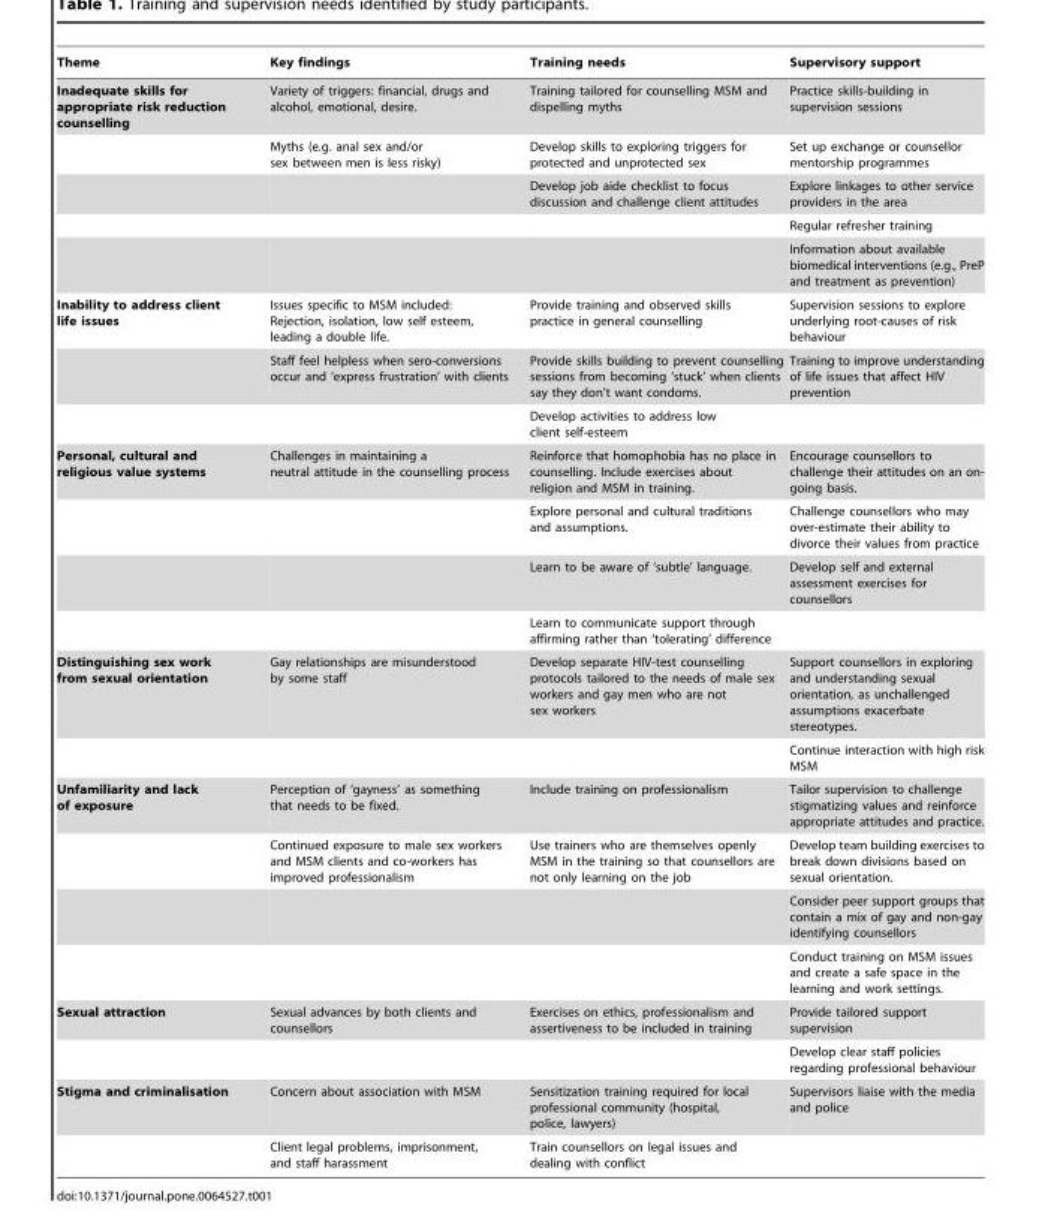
<table><thead><tr><td>Theme</td><td>Key findings</td><td>Training needs</td><td>Supervisory support</td></tr></thead><tbody><tr><td rowspan="5">Inadequate skills for appropriate risk reduction counselling</td><td>Variety of triggers: financial, drugs and alcohol, emotional, desire.</td><td>Training tailored for counselling MSM and dispelling myths</td><td>Practice skills-building in supervision sessions</td></tr><tr><td>Myths (e.g. anal sex and/or sex between men is less risky)</td><td>Develop skills to exploring triggers for protected and unprotected sex</td><td>Set up exchange or counsellor mentorship programmes</td></tr><tr><td></td><td>Develop job aide checklist to focus discussion and challenge client attitudes</td><td>Explore linkages to other service providers in the area</td></tr><tr><td></td><td></td><td>Regular refresher training</td></tr><tr><td></td><td></td><td>Information about available biomedical interventions (e.g., PreP and treatment as prevention)</td></tr><tr><td rowspan="3">Inability to address client life issues</td><td>Issues specific to MSM included: Rejection, isolation, low self esteem, leading a double life.</td><td>Provide training and observed skills practice in general counselling</td><td>Supervision sessions to explore underlying root-causes of risk behaviour</td></tr><tr><td>Staff feel helpless when sero-conversions occur and ‘express frustration’ with clients</td><td>Provide skills building to prevent counselling sessions from becoming ‘stuck’ when clients say they don’t want condoms.</td><td>Training to improve understanding of life issues that affect HIV prevention</td></tr><tr><td></td><td>Develop activities to address low client self-esteem</td><td></td></tr><tr><td rowspan="4">Personal, cultural and religious value systems</td><td>Challenges in maintaining a neutral attitude in the counselling process</td><td>Reinforce that homophobia has no place in counselling. Include exercises about religion and MSM in training.</td><td>Encourage counsellors to challenge their attitudes on an on- going basis.</td></tr><tr><td></td><td>Explore personal and cultural traditions and assumptions.</td><td>Challenge counsellors who may over-estimate their ability to divorce their values from practice</td></tr><tr><td></td><td>Learn to be aware of ‘subtle’ language.</td><td>Develop self and external assessment exercises for counsellors</td></tr><tr><td></td><td>Learn to communicate support through affirming rather than ‘tolerating’ difference</td><td></td></tr><tr><td rowspan="2">Distinguishing sex work from sexual orientation</td><td>Gay relationships are misunderstood by some staff</td><td>Develop separate HIV-test counselling protocols tailored to the needs of male sex workers and gay men who are not sex workers</td><td>Support counsellors in exploring and understanding sexual orientation, as unchallenged assumptions exacerbate stereotypes.</td></tr><tr><td></td><td></td><td>Continue interaction with high risk MSM</td></tr><tr><td rowspan="4">Unfamiliarity and lack of exposure</td><td>Perception of ‘gayness’ as something that needs to be fixed.</td><td>Include training on professionalism</td><td>Tailor supervision to challenge stigmatizing values and reinforce appropriate attitudes and practice.</td></tr><tr><td>Continued exposure to male sex workers and MSM clients and co-workers has improved professionalism</td><td>Use trainers who are themselves openly MSM in the training so that counsellors are not only learning on the job</td><td>Develop team building exercises to break down divisions based on sexual orientation.</td></tr><tr><td></td><td></td><td>Consider peer support groups that contain a mix of gay and non-gay identifying counsellors</td></tr><tr><td></td><td></td><td>Conduct training on MSM issues and create a safe space in the learning and work settings.</td></tr><tr><td rowspan="2">Sexual attraction</td><td>Sexual advances by both clients and counsellors</td><td>Exercises on ethics, professionalism and assertiveness to be included in training</td><td>Provide tailored support supervision</td></tr><tr><td></td><td></td><td>Develop clear staff policies regarding professional behaviour</td></tr><tr><td rowspan="2">Stigma and criminalisation</td><td>Concern about association with MSM</td><td>Sensitization training required for local professional community (hospital, police, lawyers)</td><td>Supervisors liaise with the media and police</td></tr><tr><td>Client legal problems, imprisonment, and staff harassment</td><td>Train counsellors on legal issues and dealing with conflict</td><td></td></tr></tbody></table>